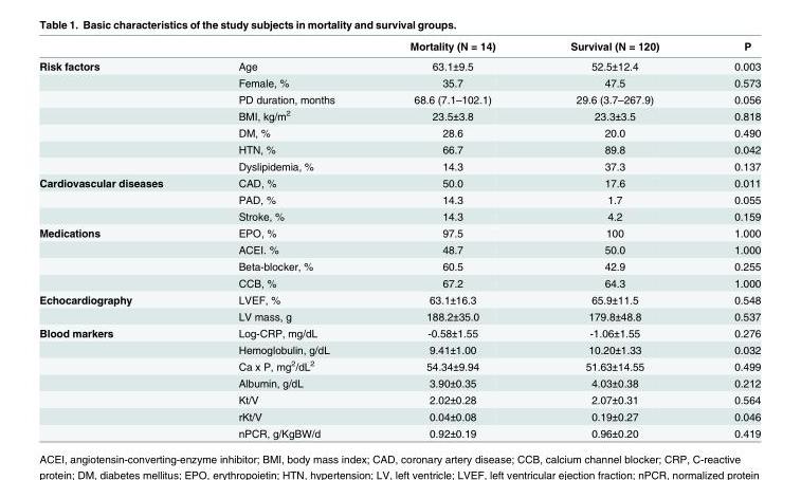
<table><thead><tr><td></td><td></td><td>Mortality (N = 14)</td><td>Survival (N = 120)</td><td>P</td></tr></thead><tbody><tr><td rowspan="7">Risk factors</td><td>Age</td><td>63.1±9.5</td><td>52.5±12.4</td><td>0.003</td></tr><tr><td>Female, %</td><td>35.7</td><td>47.5</td><td>0.573</td></tr><tr><td>PD duration, months</td><td>68.6 (7.1–102.1)</td><td>29.6 (3.7–267.9)</td><td>0.056</td></tr><tr><td>BMI, kg/m<sup>2</sup></td><td>23.5±3.8</td><td>23.3±3.5</td><td>0.818</td></tr><tr><td>DM, %</td><td>28.6</td><td>20.0</td><td>0.490</td></tr><tr><td>HTN, %</td><td>66.7</td><td>89.8</td><td>0.042</td></tr><tr><td>Dyslipidemia, %</td><td>14.3</td><td>37.3</td><td>0.137</td></tr><tr><td rowspan="3">Cardiovascular diseases</td><td>CAD, %</td><td>50.0</td><td>17.6</td><td>0.011</td></tr><tr><td>PAD, %</td><td>14.3</td><td>1.7</td><td>0.055</td></tr><tr><td>Stroke, %</td><td>14.3</td><td>4.2</td><td>0.159</td></tr><tr><td rowspan="4">Medications</td><td>EPO, %</td><td>97.5</td><td>100</td><td>1.000</td></tr><tr><td>ACEI. %</td><td>48.7</td><td>50.0</td><td>1.000</td></tr><tr><td>Beta-blocker, %</td><td>60.5</td><td>42.9</td><td>0.255</td></tr><tr><td>CCB, %</td><td>67.2</td><td>64.3</td><td>1.000</td></tr><tr><td rowspan="2">Echocardiography</td><td>LVEF, %</td><td>63.1±16.3</td><td>65.9±11.5</td><td>0.548</td></tr><tr><td>LV mass, g</td><td>188.2±35.0</td><td>179.8±48.8</td><td>0.537</td></tr><tr><td rowspan="7">Blood markers</td><td>Log-CRP, mg/dL</td><td>-0.58±1.55</td><td>-1.06±1.55</td><td>0.276</td></tr><tr><td>Hemoglobulin, g/dL</td><td>9.41±1.00</td><td>10.20±1.33</td><td>0.032</td></tr><tr><td>Ca x P, mg<sup>2</sup>/dL<sup>2</sup></td><td>54.34±9.94</td><td>51.63±14.55</td><td>0.499</td></tr><tr><td>Albumin, g/dL</td><td>3.90±0.35</td><td>4.03±0.38</td><td>0.212</td></tr><tr><td>Kt/V</td><td>2.02±0.28</td><td>2.07±0.31</td><td>0.564</td></tr><tr><td>rKt/V</td><td>0.04±0.08</td><td>0.19±0.27</td><td>0.046</td></tr><tr><td>nPCR, g/KgBW/d</td><td>0.92±0.19</td><td>0.96±0.20</td><td>0.419</td></tr></tbody></table>